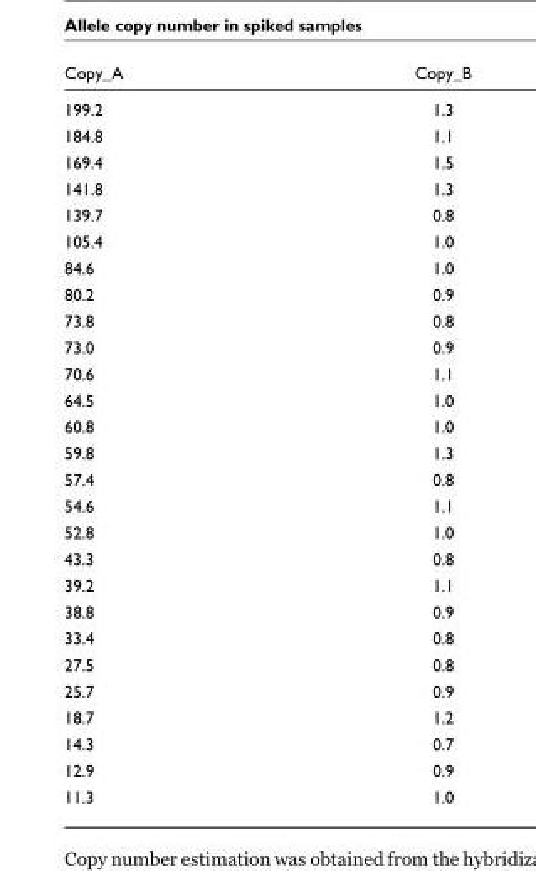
<table><thead><tr><td>Copy_A</td><td>Copy_B</td></tr></thead><tbody><tr><td>199.2</td><td>1.3</td></tr><tr><td>184.8</td><td>1.1</td></tr><tr><td>169.4</td><td>1.5</td></tr><tr><td>141.8</td><td>1.3</td></tr><tr><td>139.7</td><td>0.8</td></tr><tr><td>105.4</td><td>1.0</td></tr><tr><td>84.6</td><td>1.0</td></tr><tr><td>80.2</td><td>0.9</td></tr><tr><td>73.8</td><td>0.8</td></tr><tr><td>73.0</td><td>0.9</td></tr><tr><td>70.6</td><td>1.1</td></tr><tr><td>64.5</td><td>1.0</td></tr><tr><td>60.8</td><td>1.0</td></tr><tr><td>59.8</td><td>1.3</td></tr><tr><td>57.4</td><td>0.8</td></tr><tr><td>54.6</td><td>1.1</td></tr><tr><td>52.8</td><td>1.0</td></tr><tr><td>43.3</td><td>0.8</td></tr><tr><td>39.2</td><td>1.1</td></tr><tr><td>38.8</td><td>0.9</td></tr><tr><td>33.4</td><td>0.8</td></tr><tr><td>27.5</td><td>0.8</td></tr><tr><td>25.7</td><td>0.9</td></tr><tr><td>18.7</td><td>1.2</td></tr><tr><td>14.3</td><td>0.7</td></tr><tr><td>12.9</td><td>0.9</td></tr><tr><td>11.3</td><td>1.0</td></tr></tbody></table>